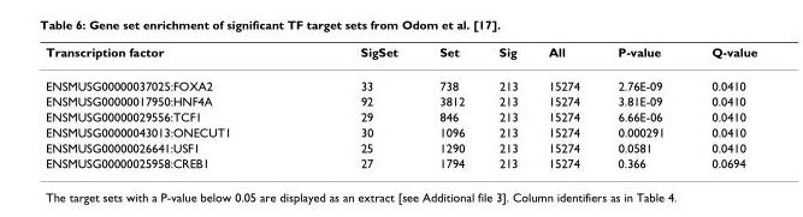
<table><thead><tr><td>Transcription factor</td><td>SigSet</td><td>Set</td><td>Sig</td><td>All</td><td>P-value</td><td>Q-value</td></tr></thead><tbody><tr><td>ENSMUSG00000037025:FOXA2</td><td>33</td><td>738</td><td>213</td><td>15274</td><td>2.76E-09</td><td>0.0410</td></tr><tr><td>ENSMUSG00000017950:HNF4A</td><td>92</td><td>3812</td><td>213</td><td>15274</td><td>3.81E-09</td><td>0.0410</td></tr><tr><td>ENSMUSG00000029556:TCF1</td><td>29</td><td>846</td><td>213</td><td>15274</td><td>6.66E-06</td><td>0.0410</td></tr><tr><td>ENSMUSG00000043013:ONECUT1</td><td>30</td><td>1096</td><td>213</td><td>15274</td><td>0.000291</td><td>0.0410</td></tr><tr><td>ENSMUSG00000026641:USF1</td><td>25</td><td>1290</td><td>213</td><td>15274</td><td>0.0581</td><td>0.0410</td></tr><tr><td>ENSMUSG00000025958:CREB1</td><td>27</td><td>1794</td><td>213</td><td>15274</td><td>0.366</td><td>0.0694</td></tr></tbody></table>